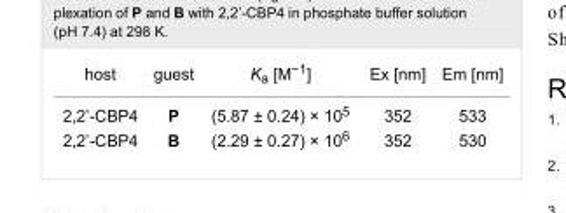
<table><tbody><tr><td>host</td><td>guest</td><td>K<sub>a</sub> [M<sup>−1</sup>]</td><td>Ex [nm]</td><td>Em [nm]</td></tr><tr><td>2,2’-CBP4</td><td>P</td><td>(5.87 ± 0.24) × 10<sup>5</sup></td><td>352</td><td>533</td></tr><tr><td>2,2’-CBP4</td><td>B</td><td>(2.29 ± 0.27) × 10<sup>6</sup></td><td>352</td><td>530</td></tr></tbody></table>